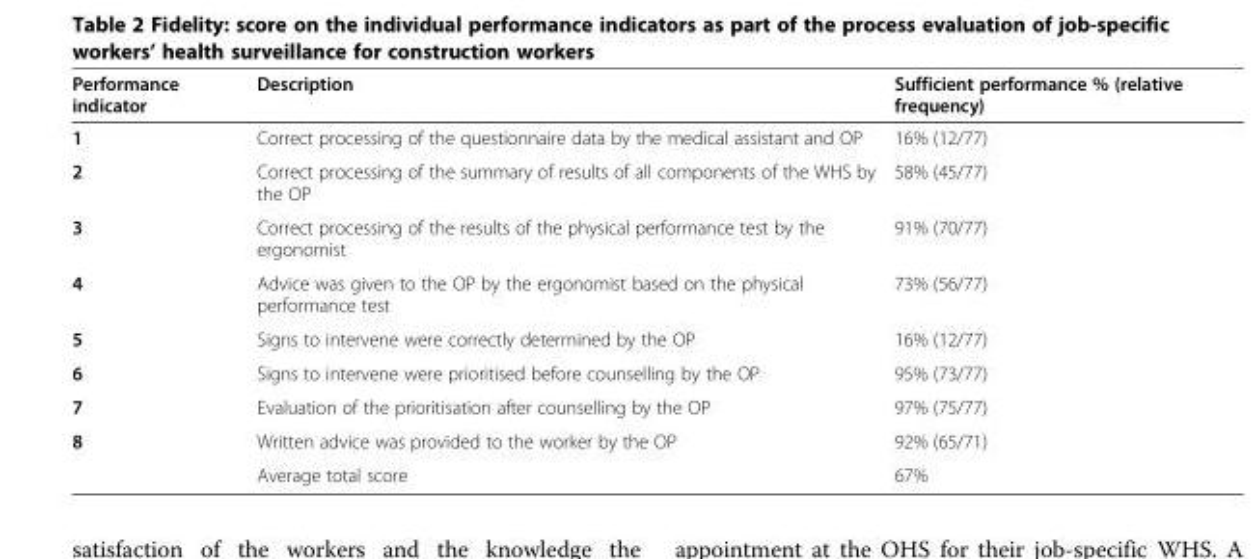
<table><thead><tr><td>Performance indicator</td><td>Description</td><td>Sufficient performance % (relative frequency)</td></tr></thead><tbody><tr><td>1</td><td>Correct processing of the questionnaire data by the medical assistant and OP</td><td>16% (12/77)</td></tr><tr><td>2</td><td>Correct processing of the summary of results of all components of the WHS by the OP</td><td>58% (45/77)</td></tr><tr><td>3</td><td>Correct processing of the results of the physical performance test by the ergonomist</td><td>91% (70/77)</td></tr><tr><td>4</td><td>Advice was given to the OP by the ergonomist based on the physical performance test</td><td>73% (56/77)</td></tr><tr><td>5</td><td>Signs to intervene were correctly determined by the OP</td><td>16% (12/77)</td></tr><tr><td>6</td><td>Signs to intervene were prioritised before counselling by the OP</td><td>95% (73/77)</td></tr><tr><td>7</td><td>Evaluation of the prioritisation after counselling by the OP</td><td>97% (75/77)</td></tr><tr><td rowspan="2">8</td><td>Written advice was provided to the worker by the OP</td><td>92% (65/71)</td></tr><tr><td>Average total score</td><td>67%</td></tr></tbody></table>